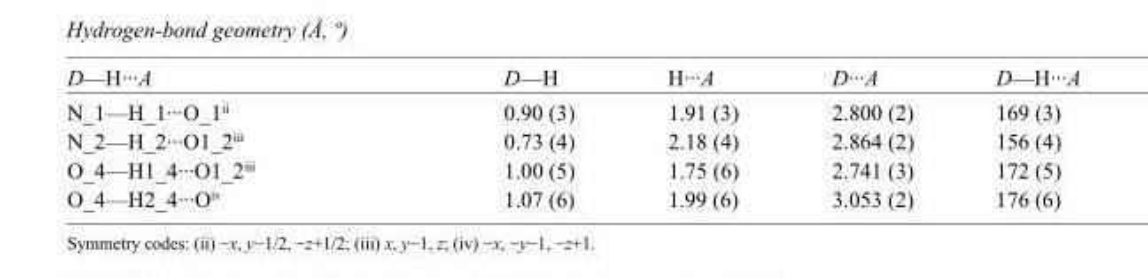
<table><tbody><tr><td>D—H···A</td><td>D—H</td><td>H···A</td><td>D···A</td><td>D—H···A</td></tr><tr><td>N_1—H_1···O_1<sup>ii</sup></td><td>0.90 (3)</td><td>1.91 (3)</td><td>2.800 (2)</td><td>169 (3)</td></tr><tr><td>N_2—H_2···O1_2<sup>iii</sup></td><td>0.73 (4)</td><td>2.18 (4)</td><td>2.864 (2)</td><td>156 (4)</td></tr><tr><td>O_4—H1_4···O1_2<sup>iii</sup></td><td>1.00 (5)</td><td>1.75 (6)</td><td>2.741 (3)</td><td>172 (5)</td></tr><tr><td>O_4—H2_4···O<sup>iv</sup></td><td>1.07 (6)</td><td>1.99 (6)</td><td>3.053 (2)</td><td>176 (6)</td></tr></tbody></table>